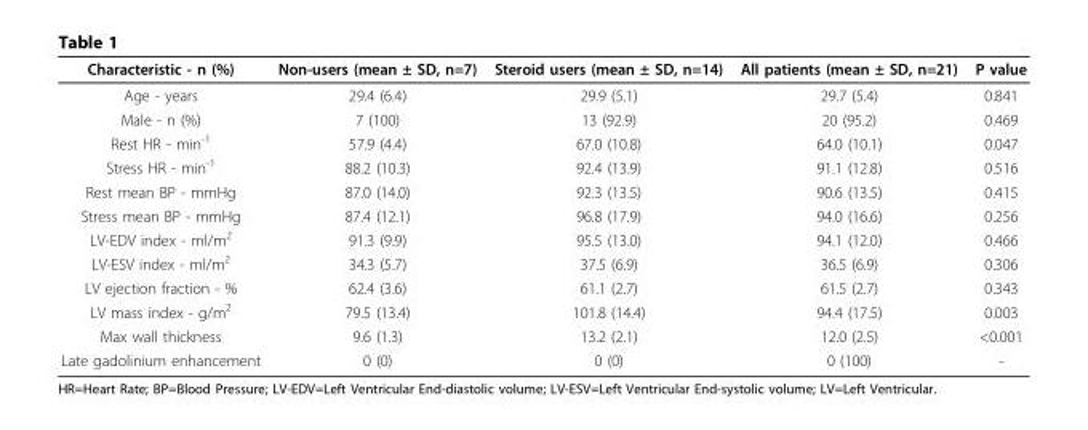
<table><thead><tr><td>Characteristic - n (%)</td><td>Non-users (mean ± SD, n=7)</td><td>Steroid users (mean ± SD, n=14)</td><td>All patients (mean ± SD, n=21)</td><td>P value</td></tr></thead><tbody><tr><td>Age - years</td><td>29.4 (6.4)</td><td>29.9 (5.1)</td><td>29.7 (5.4)</td><td>0.841</td></tr><tr><td>Male - n (%)</td><td>7 (100)</td><td>13 (92.9)</td><td>20 (95.2)</td><td>0.469</td></tr><tr><td>Rest HR - min<sup>-1</sup></td><td>57.9 (4.4)</td><td>67.0 (10.8)</td><td>64.0 (10.1)</td><td>0.047</td></tr><tr><td>Stress HR - min<sup>-1</sup></td><td>88.2 (10.3)</td><td>92.4 (13.9)</td><td>91.1 (12.8)</td><td>0.516</td></tr><tr><td>Rest mean BP - mmHg</td><td>87.0 (14.0)</td><td>92.3 (13.5)</td><td>90.6 (13.5)</td><td>0.415</td></tr><tr><td>Stress mean BP - mmHg</td><td>87.4 (12.1)</td><td>96.8 (17.9)</td><td>94.0 (16.6)</td><td>0.256</td></tr><tr><td>LV-EDV index - ml/m<sup>2</sup></td><td>91.3 (9.9)</td><td>95.5 (13.0)</td><td>94.1 (12.0)</td><td>0.466</td></tr><tr><td>LV-ESV index - ml/m<sup>2</sup></td><td>34.3 (5.7)</td><td>37.5 (6.9)</td><td>36.5 (6.9)</td><td>0.306</td></tr><tr><td>LV ejection fraction - %</td><td>62.4 (3.6)</td><td>61.1 (2.7)</td><td>61.5 (2.7)</td><td>0.343</td></tr><tr><td>LV mass index - g/m<sup>2</sup></td><td>79.5 (13.4)</td><td>101.8 (14.4)</td><td>94.4 (17.5)</td><td>0.003</td></tr><tr><td>Max wall thickness</td><td>9.6 (1.3)</td><td>13.2 (2.1)</td><td>12.0 (2.5)</td><td>&lt;0.001</td></tr><tr><td>Late gadolinium enhancement</td><td>0 (0)</td><td>0 (0)</td><td>0 (100)</td><td>-</td></tr></tbody></table>